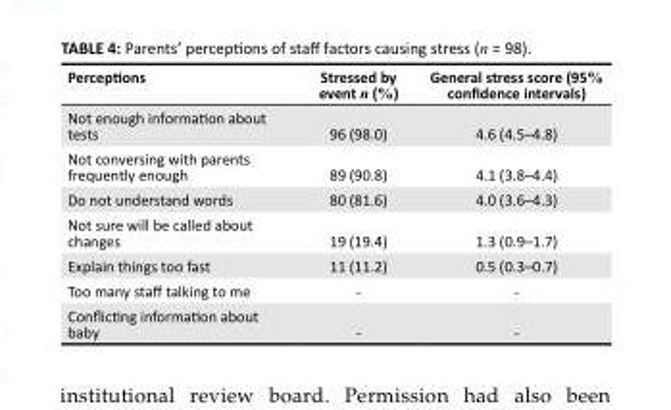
<table><thead><tr><td>Perceptions</td><td>Stressed by event n (%)</td><td>General stress score (95% confidence intervals)</td></tr></thead><tbody><tr><td>Not enough information about tests</td><td>96 (98.0)</td><td>4.6 (4.5–4.8)</td></tr><tr><td>Not conversing with parents frequently enough</td><td>89 (90.8)</td><td>4.1 (3.8–4.4)</td></tr><tr><td>Do not understand words</td><td>80 (81.6)</td><td>4.0 (3.6–4.3)</td></tr><tr><td>Not sure will be called about changes</td><td>19 (19.4)</td><td>1.3 (0.9–1.7)</td></tr><tr><td>Explain things too fast</td><td>11 (11.2)</td><td>0.5 (0.3–0.7)</td></tr><tr><td>Too many staff talking to me</td><td>-</td><td>-</td></tr><tr><td>Conflicting information about baby</td><td>-</td><td>-</td></tr></tbody></table>